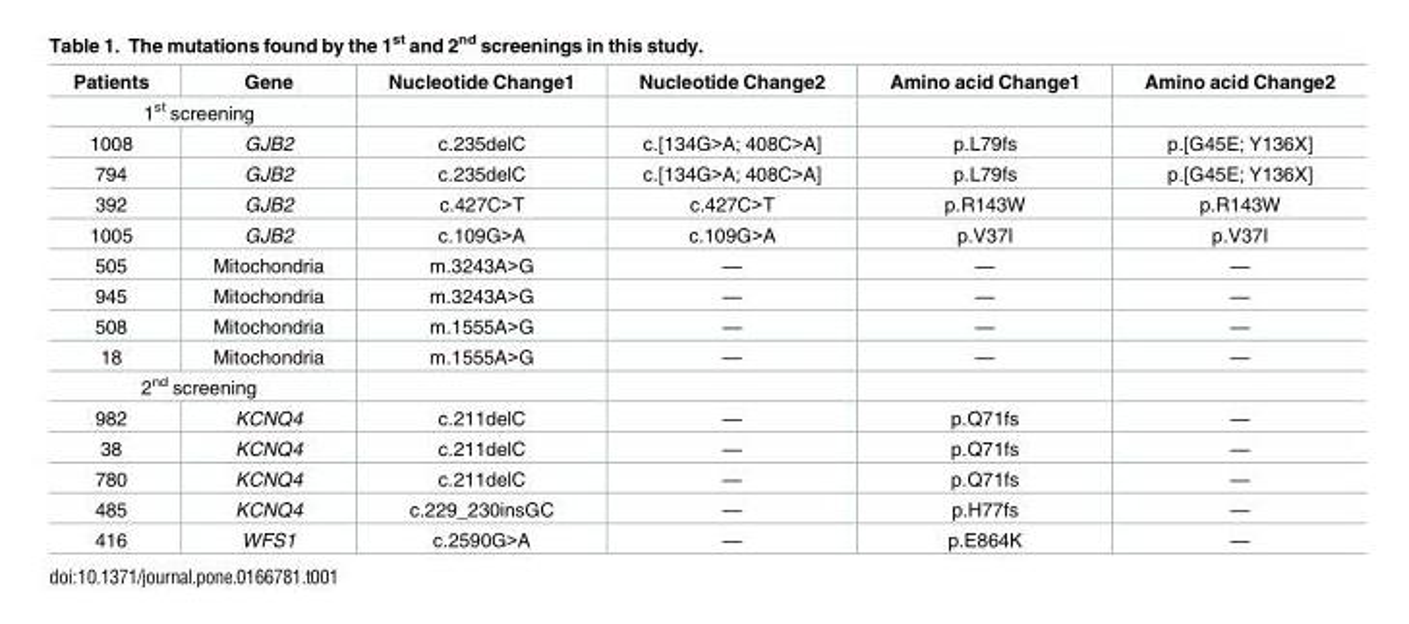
<table><thead><tr><td>Patients</td><td>Gene</td><td>Nucleotide Change1</td><td>Nucleotide Change2</td><td>Amino acid Change1</td><td>Amino acid Change2</td></tr></thead><tbody><tr><td colspan="6">1<sup>st</sup> screening</td></tr><tr><td>1008</td><td>GJB2</td><td>c.235delC</td><td>c.[134G&gt;A; 408C&gt;A]</td><td>p.L79fs</td><td>p.[G45E; Y136X]</td></tr><tr><td>794</td><td>GJB2</td><td>c.235delC</td><td>c.[134G&gt;A; 408C&gt;A]</td><td>p.L79fs</td><td>p.[G45E; Y136X]</td></tr><tr><td>392</td><td>GJB2</td><td>c.427C&gt;T</td><td>c.427C&gt;T</td><td>p.R143W</td><td>p.R143W</td></tr><tr><td>1005</td><td>GJB2</td><td>c.109G&gt;A</td><td>c.109G&gt;A</td><td>p.V37I</td><td>p.V37I</td></tr><tr><td>505</td><td>Mitochondria</td><td>m.3243A&gt;G</td><td>—</td><td>—</td><td>—</td></tr><tr><td>945</td><td>Mitochondria</td><td>m.3243A&gt;G</td><td>—</td><td>—</td><td>—</td></tr><tr><td>508</td><td>Mitochondria</td><td>m.1555A&gt;G</td><td>—</td><td>—</td><td>—</td></tr><tr><td>18</td><td>Mitochondria</td><td>m.1555A&gt;G</td><td>—</td><td>—</td><td>—</td></tr><tr><td colspan="6">2<sup>nd</sup> screening</td></tr><tr><td>982</td><td>KCNQ4</td><td>c.211delC</td><td>—</td><td>p.Q71fs</td><td>—</td></tr><tr><td>38</td><td>KCNQ4</td><td>c.211delC</td><td>—</td><td>p.Q71fs</td><td>—</td></tr><tr><td>780</td><td>KCNQ4</td><td>c.211delC</td><td>—</td><td>p.Q71fs</td><td>—</td></tr><tr><td>485</td><td>KCNQ4</td><td>c.229_230insGC</td><td>—</td><td>p.H77fs</td><td>—</td></tr><tr><td>416</td><td>WFS1</td><td>c.2590G&gt;A</td><td>—</td><td>p.E864K</td><td>—</td></tr></tbody></table>